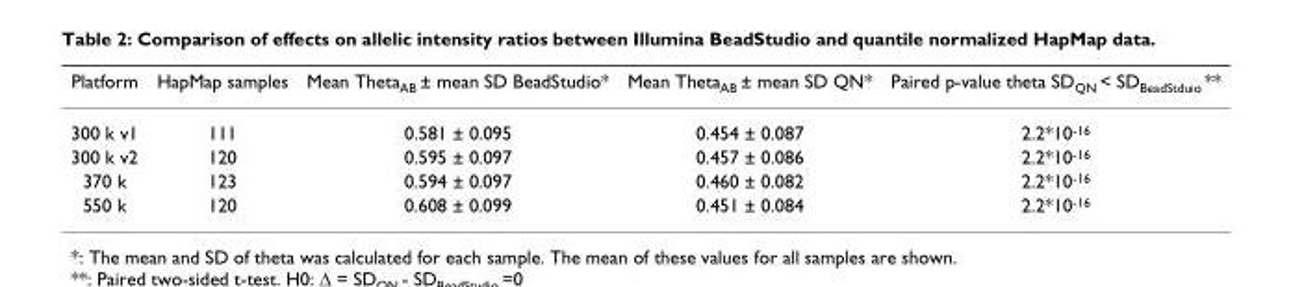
<table><thead><tr><td>Platform</td><td>HapMap samples</td><td>Mean Theta<sub>AB</sub> ± mean SD BeadStudio*</td><td>Mean Theta<sub>AB</sub> ± mean SD QN*</td><td>Paired p-value theta SD<sub>QN</sub> &lt; SD<sub>BeadStduio</sub> **</td></tr></thead><tbody><tr><td>300 k v1</td><td>111</td><td>0.581 ± 0.095</td><td>0.454 ± 0.087</td><td>2.2*10<sup>-16</sup></td></tr><tr><td>300 k v2</td><td>120</td><td>0.595 ± 0.097</td><td>0.457 ± 0.086</td><td>2.2*10<sup>-16</sup></td></tr><tr><td>370 k</td><td>123</td><td>0.594 ± 0.097</td><td>0.460 ± 0.082</td><td>2.2*10<sup>-16</sup></td></tr><tr><td>550 k</td><td>120</td><td>0.608 ± 0.099</td><td>0.451 ± 0.084</td><td>2.2*10<sup>-16</sup></td></tr></tbody></table>